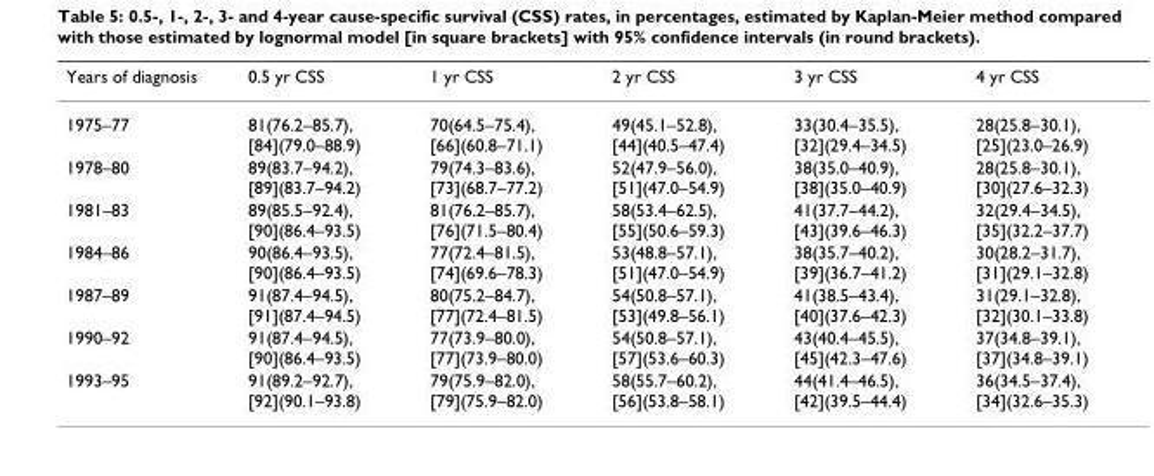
<table><thead><tr><td>Years of diagnosis</td><td>0.5 yr CSS</td><td>1 yr CSS</td><td>2 yr CSS</td><td>3 yr CSS</td><td>4 yr CSS</td></tr></thead><tbody><tr><td>1975–77</td><td>81(76.2–85.7), [84](79.0–88.9)</td><td>70(64.5–75.4), [66](60.8–71.1)</td><td>49(45.1–52.8), [44](40.5–47.4)</td><td>33(30.4–35.5), [32](29.4–34.5)</td><td>28(25.8–30.1), [25](23.0–26.9)</td></tr><tr><td>1978–80</td><td>89(83.7–94.2), [89](83.7–94.2)</td><td>79(74.3–83.6), [73](68.7–77.2)</td><td>52(47.9–56.0), [51](47.0–54.9)</td><td>38(35.0–40.9), [38](35.0–40.9)</td><td>28(25.8–30.1), [30](27.6–32.3)</td></tr><tr><td>1981–83</td><td>89(85.5–92.4), [90](86.4–93.5)</td><td>81(76.2–85.7), [76](71.5–80.4)</td><td>58(53.4–62.5), [55](50.6–59.3)</td><td>41(37.7–44.2), [43](39.6–46.3)</td><td>32(29.4–34.5), [35](32.2–37.7)</td></tr><tr><td>1984–86</td><td>90(86.4–93.5), [90](86.4–93.5)</td><td>77(72.4–81.5), [74](69.6–78.3)</td><td>53(48.8–57.1), [51](47.0–54.9)</td><td>38(35.7–40.2), [39](36.7–41.2)</td><td>30(28.2–31.7), [31](29.1–32.8)</td></tr><tr><td>1987–89</td><td>91(87.4–94.5), [91](87.4–94.5)</td><td>80(75.2–84.7), [77](72.4–81.5)</td><td>54(50.8–57.1), [53](49.8–56.1)</td><td>41(38.5–43.4), [40](37.6–42.3)</td><td>31(29.1–32.8), [32](30.1–33.8)</td></tr><tr><td>1990–92</td><td>91(87.4–94.5), [90](86.4–93.5)</td><td>77(73.9–80.0), [77](73.9–80.0)</td><td>54(50.8–57.1), [57](53.6–60.3)</td><td>43(40.4–45.5), [45](42.3–47.6)</td><td>37(34.8–39.1), [37](34.8–39.1)</td></tr><tr><td>1993–95</td><td>91(89.2–92.7), [92](90.1–93.8)</td><td>79(75.9–82.0), [79](75.9–82.0)</td><td>58(55.7–60.2), [56](53.8–58.1)</td><td>44(41.4–46.5), [42](39.5–44.4)</td><td>36(34.5–37.4), [34](32.6–35.3)</td></tr></tbody></table>